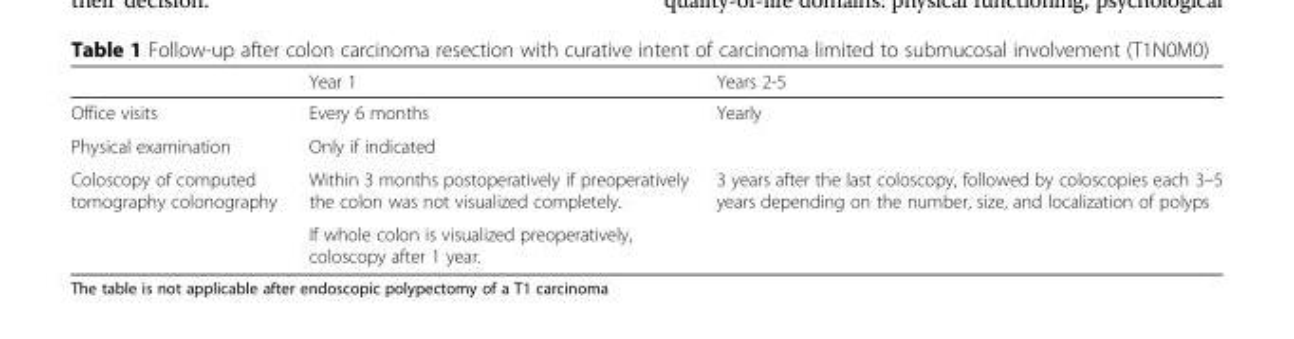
<table><thead><tr><td></td><td>Year 1</td><td>Years 2-5</td></tr></thead><tbody><tr><td>Office visits</td><td>Every 6 months</td><td>Yearly</td></tr><tr><td>Physical examination</td><td colspan="2">Only if indicated</td></tr><tr><td rowspan="2">Coloscopy of computed tomography colonography</td><td>Within 3 months postoperatively if preoperatively the colon was not visualized completely.</td><td rowspan="2">3 years after the last coloscopy, followed by coloscopies each 3–5 years depending on the number, size, and localization of polyps</td></tr><tr><td>If whole colon is visualized preoperatively, coloscopy after 1 year.</td></tr></tbody></table>